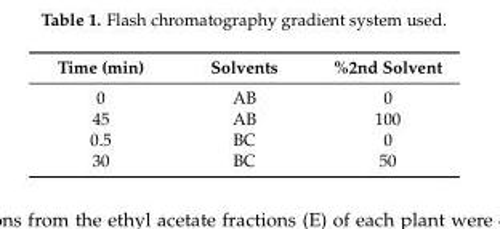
<table><thead><tr><td>Time (min)</td><td>Solvents</td><td>%2nd Solvent</td></tr></thead><tbody><tr><td>0</td><td>AB</td><td>0</td></tr><tr><td>45</td><td>AB</td><td>100</td></tr><tr><td>0.5</td><td>BC</td><td>0</td></tr><tr><td>30</td><td>BC</td><td>50</td></tr></tbody></table>